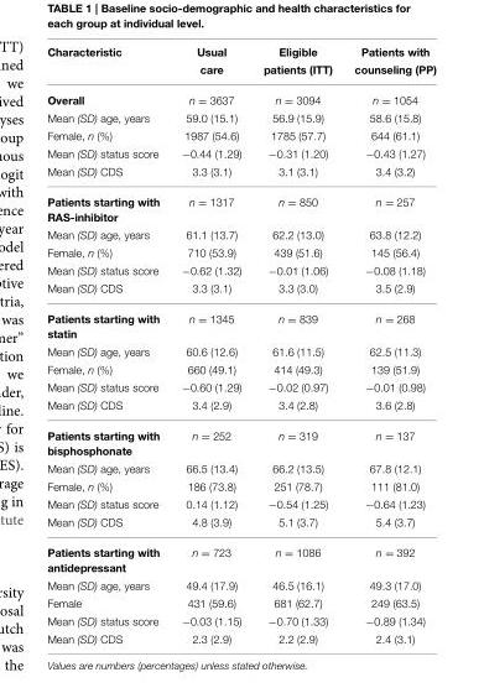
<table><thead><tr><td>Characteristic</td><td>Usual care</td><td>Eligible patients (ITT)</td><td>Patients with counseling (PP)</td></tr></thead><tbody><tr><td>Overall</td><td>n = 3637</td><td>n = 3094</td><td>n = 1054</td></tr><tr><td>Mean (SD) age, years</td><td>59.0 (15.1)</td><td>56.9 (15.9)</td><td>58.6 (15.8)</td></tr><tr><td>Female, n (%)</td><td>1987 (54.6)</td><td>1785 (57.7)</td><td>644 (61.1)</td></tr><tr><td>Mean (SD) status score</td><td>−0.44 (1.29)</td><td>−0.31 (1.20)</td><td>−0.43 (1.27)</td></tr><tr><td>Mean (SD) CDS</td><td>3.3 (3.1)</td><td>3.1 (3.1)</td><td>3.4 (3.2)</td></tr><tr><td>Patients starting with RAS-inhibitor</td><td>n = 1317</td><td>n = 850</td><td>n = 257</td></tr><tr><td>Mean (SD) age, years</td><td>61.1 (13.7)</td><td>62.2 (13.0)</td><td>63.8 (12.2)</td></tr><tr><td>Female, n (%)</td><td>710 (53.9)</td><td>439 (51.6)</td><td>145 (56.4)</td></tr><tr><td>Mean (SD) status score</td><td>−0.62 (1.32)</td><td>−0.01 (1.06)</td><td>−0.08 (1.18)</td></tr><tr><td>Mean (SD) CDS</td><td>3.3 (3.1)</td><td>3.3 (3.0)</td><td>3.5 (2.9)</td></tr><tr><td>Patients starting with statin</td><td>n = 1345</td><td>n = 839</td><td>n = 268</td></tr><tr><td>Mean (SD) age, years</td><td>60.6 (12.6)</td><td>61.6 (11.5)</td><td>62.5 (11.3)</td></tr><tr><td>Female, n (%)</td><td>660 (49.1)</td><td>414 (49.3)</td><td>139 (51.9)</td></tr><tr><td>Mean (SD) status score</td><td>−0.60 (1.29)</td><td>−0.02 (0.97)</td><td>−0.01 (0.98)</td></tr><tr><td>Mean (SD) CDS</td><td>3.4 (2.9)</td><td>3.4 (2.8)</td><td>3.6 (2.8)</td></tr><tr><td>Patients starting with bisphosphonate</td><td>n = 252</td><td>n = 319</td><td>n = 137</td></tr><tr><td>Mean (SD) age, years</td><td>66.5 (13.4)</td><td>66.2 (13.5)</td><td>67.8 (12.1)</td></tr><tr><td>Female, n (%)</td><td>186 (73.8)</td><td>251 (78.7)</td><td>111 (81.0)</td></tr><tr><td>Mean (SD) status score</td><td>0.14 (1.12)</td><td>−0.54 (1.25)</td><td>−0.64 (1.23)</td></tr><tr><td>Mean (SD) CDS</td><td>4.8 (3.9)</td><td>5.1 (3.7)</td><td>5.4 (3.7)</td></tr><tr><td>Patients starting with antidepressant</td><td>n = 723</td><td>n = 1086</td><td>n = 392</td></tr><tr><td>Mean (SD) age, years</td><td>49.4 (17.9)</td><td>46.5 (16.1)</td><td>49.3 (17.0)</td></tr><tr><td>Female</td><td>431 (59.6)</td><td>681 (62.7)</td><td>249 (63.5)</td></tr><tr><td>Mean (SD) status score</td><td>−0.03 (1.15)</td><td>−0.70 (1.33)</td><td>−0.89 (1.34)</td></tr><tr><td>Mean (SD) CDS</td><td>2.3 (2.9)</td><td>2.2 (2.9)</td><td>2.4 (3.1)</td></tr></tbody></table>